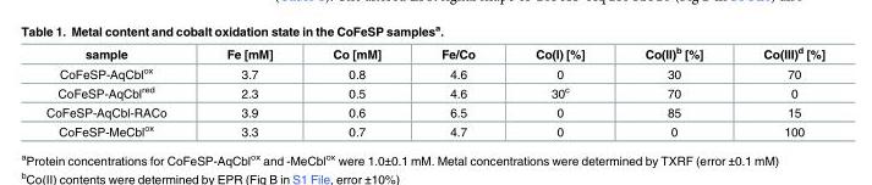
<table><thead><tr><td>sample</td><td>Fe [mM]</td><td>Co [mM]</td><td>Fe/Co</td><td>Co(I) [%]</td><td>Co(II)<sup>b</sup> [%]</td><td>Co(III)<sup>d</sup> [%]</td></tr></thead><tbody><tr><td>CoFeSP-AqCbl<sup>ox</sup></td><td>3.7</td><td>0.8</td><td>4.6</td><td>0</td><td>30</td><td>70</td></tr><tr><td>CoFeSP-AqCbl<sup>red</sup></td><td>2.3</td><td>0.5</td><td>4.6</td><td>30<sup>c</sup></td><td>70</td><td>0</td></tr><tr><td>CoFeSP-AqCbl-RACo</td><td>3.9</td><td>0.6</td><td>6.5</td><td>0</td><td>85</td><td>15</td></tr><tr><td>CoFeSP-MeCbl<sup>ox</sup></td><td>3.3</td><td>0.7</td><td>4.7</td><td>0</td><td>0</td><td>100</td></tr></tbody></table>